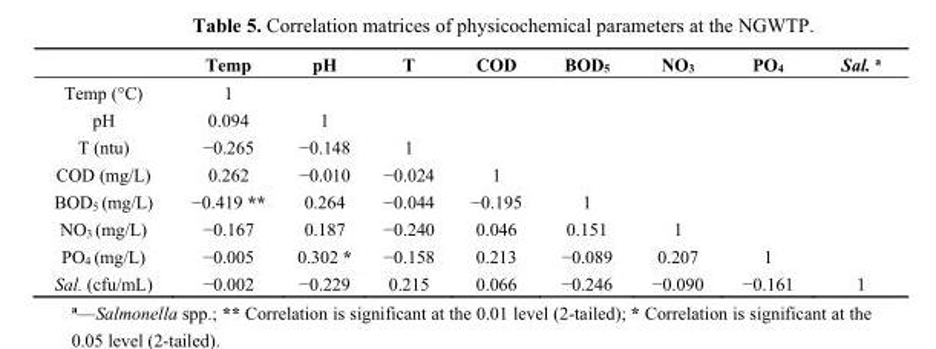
<table><thead><tr><td></td><td>Temp</td><td>pH</td><td>T</td><td>COD</td><td>BOD<sub>5</sub></td><td>NO<sub>3</sub></td><td>PO<sub>4</sub></td><td>Sal. <sup>a</sup></td></tr></thead><tbody><tr><td>Temp (°C)</td><td>1</td><td></td><td></td><td></td><td></td><td></td><td></td><td></td></tr><tr><td>pH</td><td>0.094</td><td>1</td><td></td><td></td><td></td><td></td><td></td><td></td></tr><tr><td>T (ntu)</td><td>−0.265</td><td>−0.148</td><td>1</td><td></td><td></td><td></td><td></td><td></td></tr><tr><td>COD (mg/L)</td><td>0.262</td><td>−0.010</td><td>−0.024</td><td>1</td><td></td><td></td><td></td><td></td></tr><tr><td>BOD<sub>5</sub> (mg/L)</td><td>−0.419 **</td><td>0.264</td><td>−0.044</td><td>−0.195</td><td>1</td><td></td><td></td><td></td></tr><tr><td>NO<sub>3</sub> (mg/L)</td><td>−0.167</td><td>0.187</td><td>−0.240</td><td>0.046</td><td>0.151</td><td>1</td><td></td><td></td></tr><tr><td>PO<sub>4</sub> (mg/L)</td><td>−0.005</td><td>0.302 *</td><td>−0.158</td><td>0.213</td><td>−0.089</td><td>0.207</td><td>1</td><td></td></tr><tr><td>Sal. (cfu/mL)</td><td>−0.002</td><td>−0.229</td><td>0.215</td><td>0.066</td><td>−0.246</td><td>−0.090</td><td>−0.161</td><td>1</td></tr></tbody></table>